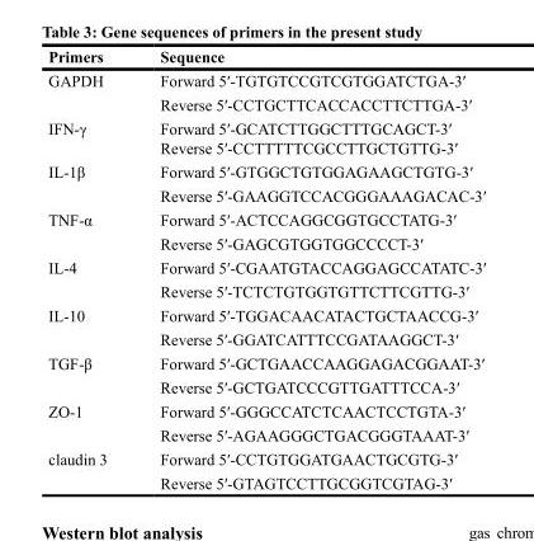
<table><thead><tr><td>Primers</td><td>Sequence</td></tr></thead><tbody><tr><td rowspan="2">GAPDH</td><td>Forward 5′-TGTGTCCGTCGTGGATCTGA-3′</td></tr><tr><td>Reverse 5′-CCTGCTTCACCACCTTCTTGA-3′</td></tr><tr><td rowspan="2">IFN-γ</td><td>Forward 5′-GCATCTTGGCTTTGCAGCT-3′</td></tr><tr><td>Reverse 5′-CCTTTTTCGCCTTGCTGTTG-3′</td></tr><tr><td rowspan="2">IL-1β</td><td>Forward 5′-GTGGCTGTGGAGAAGCTGTG-3′</td></tr><tr><td>Reverse 5′-GAAGGTCCACGGGAAAGACAC-3′</td></tr><tr><td rowspan="2">TNF-α</td><td>Forward 5′-ACTCCAGGCGGTGCCTATG-3′</td></tr><tr><td>Reverse 5′-GAGCGTGGTGGCCCCT-3′</td></tr><tr><td rowspan="2">IL-4</td><td>Forward 5′-CGAATGTACCAGGAGCCATATC-3′</td></tr><tr><td>Reverse 5′-TCTCTGTGGTGTTCTTCGTTG-3′</td></tr><tr><td rowspan="2">IL-10</td><td>Forward 5′-TGGACAACATACTGCTAACCG-3′</td></tr><tr><td>Reverse 5′-GGATCATTTCCGATAAGGCT-3′</td></tr><tr><td rowspan="2">TGF-β</td><td>Forward 5′-GCTGAACCAAGGAGACGGAAT-3′</td></tr><tr><td>Reverse 5′-GCTGATCCCGTTGATTTCCA-3′</td></tr><tr><td rowspan="2">ZO-1</td><td>Forward 5′-GGGCCATCTCAACTCCTGTA-3′</td></tr><tr><td>Reverse 5′-AGAAGGGCTGACGGGTAAAT-3′</td></tr><tr><td rowspan="2">claudin 3</td><td>Forward 5′-CCTGTGGATGAACTGCGTG-3′</td></tr><tr><td>Reverse 5′-GTAGTCCTTGCGGTCGTAG-3′</td></tr></tbody></table>